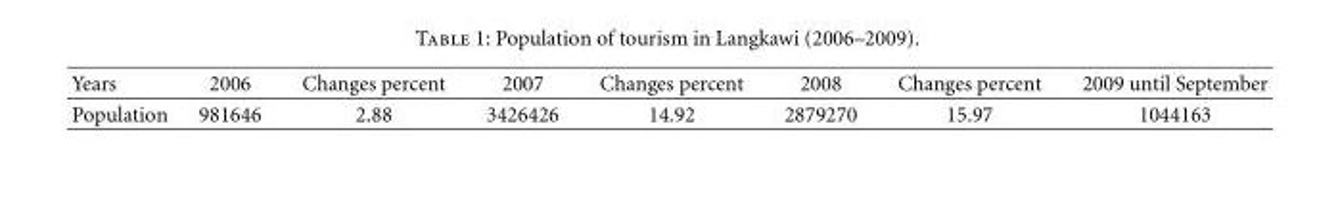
<table><thead><tr><td>Years</td><td>2006</td><td>Changes percent</td><td>2007</td><td>Changes percent</td><td>2008</td><td>Changes percent</td><td>2009 until September</td></tr></thead><tbody><tr><td>Population</td><td>981646</td><td>2.88</td><td>3426426</td><td>14.92</td><td>2879270</td><td>15.97</td><td>1044163</td></tr></tbody></table>